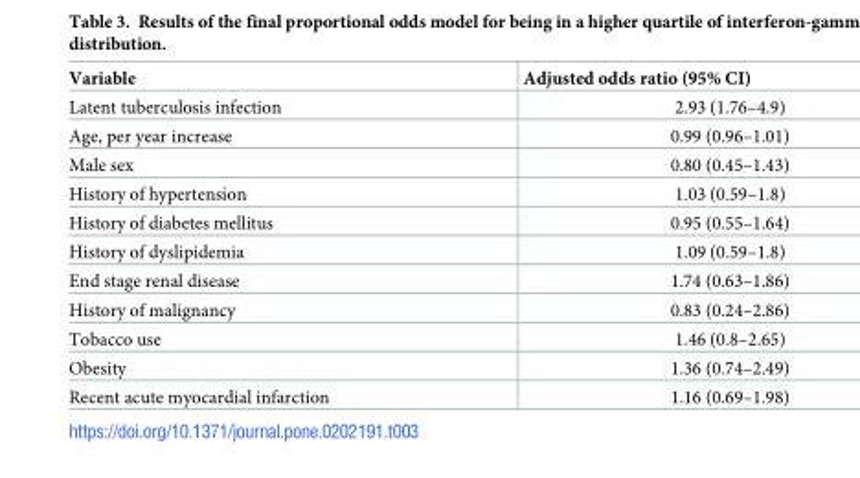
<table><thead><tr><td>Variable</td><td>Adjusted odds ratio (95% CI)</td></tr></thead><tbody><tr><td>Latent tuberculosis infection</td><td>2.93 (1.76–4.9)</td></tr><tr><td>Age, per year increase</td><td>0.99 (0.96–1.01)</td></tr><tr><td>Male sex</td><td>0.80 (0.45–1.43)</td></tr><tr><td>History of hypertension</td><td>1.03 (0.59–1.8)</td></tr><tr><td>History of diabetes mellitus</td><td>0.95 (0.55–1.64)</td></tr><tr><td>History of dyslipidemia</td><td>1.09 (0.59–1.8)</td></tr><tr><td>End stage renal disease</td><td>1.74 (0.63–1.86)</td></tr><tr><td>History of malignancy</td><td>0.83 (0.24–2.86)</td></tr><tr><td>Tobacco use</td><td>1.46 (0.8–2.65)</td></tr><tr><td>Obesity</td><td>1.36 (0.74–2.49)</td></tr><tr><td>Recent acute myocardial infarction</td><td>1.16 (0.69–1.98)</td></tr></tbody></table>